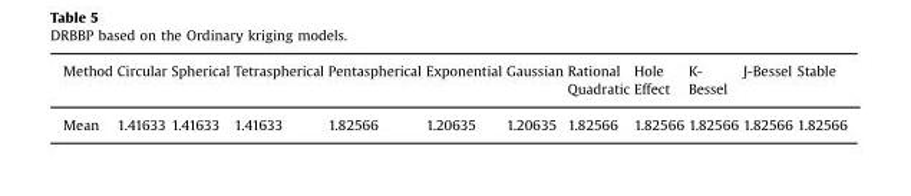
<table><thead><tr><td>Method</td><td>Circular</td><td>Spherical</td><td>Tetraspherical</td><td>Pentaspherical</td><td>Exponential</td><td>Gaussian</td><td>Rational Quadratic</td><td>Hole Effect</td><td>K- Bessel</td><td>J-Bessel</td><td>Stable</td></tr></thead><tbody><tr><td>Mean</td><td>1.41633</td><td>1.41633</td><td>1.41633</td><td>1.82566</td><td>1.20635</td><td>1.20635</td><td>1.82566</td><td>1.82566</td><td>1.82566</td><td>1.82566</td><td>1.82566</td></tr></tbody></table>